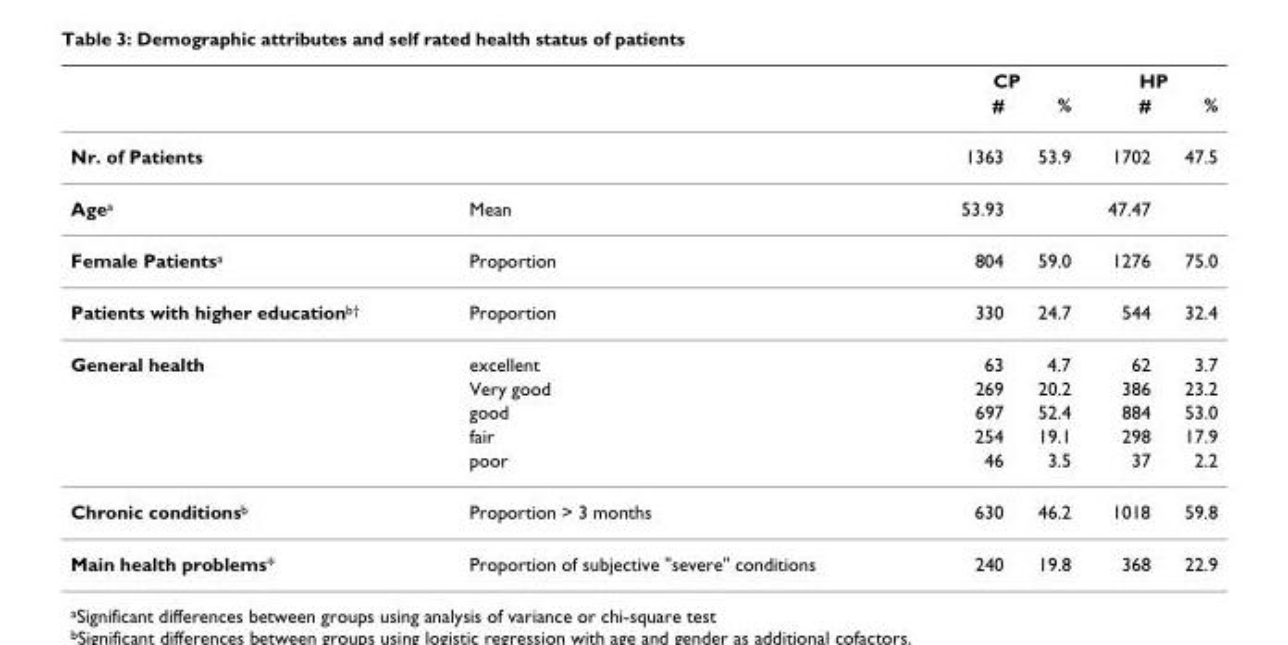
<table><thead><tr><td rowspan="2"></td><td rowspan="2"></td><td colspan="2">CP</td><td colspan="2">HP</td></tr><tr><td>#</td><td>%</td><td>#</td><td>%</td></tr></thead><tbody><tr><td>Nr. of Patients</td><td></td><td>1363</td><td>53.9</td><td>1702</td><td>47.5</td></tr><tr><td>Age<sup>a</sup></td><td>Mean</td><td>53.93</td><td></td><td>47.47</td><td></td></tr><tr><td>Female Patients<sup>a</sup></td><td>Proportion</td><td>804</td><td>59.0</td><td>1276</td><td>75.0</td></tr><tr><td>Patients with higher education<sup>b†</sup></td><td>Proportion</td><td>330</td><td>24.7</td><td>544</td><td>32.4</td></tr><tr><td rowspan="5">General health</td><td>excellent</td><td>63</td><td>4.7</td><td>62</td><td>3.7</td></tr><tr><td>Very good</td><td>269</td><td>20.2</td><td>386</td><td>23.2</td></tr><tr><td>good</td><td>697</td><td>52.4</td><td>884</td><td>53.0</td></tr><tr><td>fair</td><td>254</td><td>19.1</td><td>298</td><td>17.9</td></tr><tr><td>poor</td><td>46</td><td>3.5</td><td>37</td><td>2.2</td></tr><tr><td>Chronic conditions<sup>b</sup></td><td>Proportion &gt; 3 months</td><td>630</td><td>46.2</td><td>1018</td><td>59.8</td></tr><tr><td>Main health problems*</td><td>Proportion of subjective &quot;severe&quot; conditions</td><td>240</td><td>19.8</td><td>368</td><td>22.9</td></tr></tbody></table>